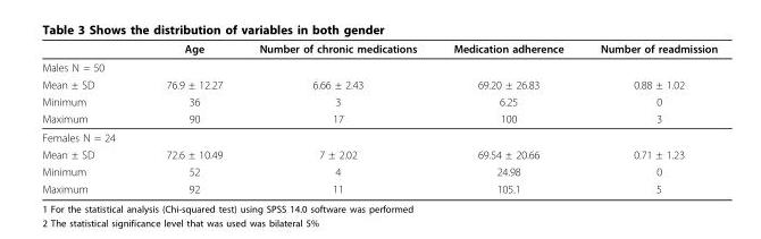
<table><thead><tr><td></td><td>Age</td><td>Number of chronic medications</td><td>Medication adherence</td><td>Number of readmission</td></tr></thead><tbody><tr><td colspan="5">Males N = 50</td></tr><tr><td>Mean ± SD</td><td>76.9 ± 12.27</td><td>6.66 ± 2.43</td><td>69.20 ± 26.83</td><td>0.88 ± 1.02</td></tr><tr><td>Minimum</td><td>36</td><td>3</td><td>6.25</td><td>0</td></tr><tr><td>Maximum</td><td>90</td><td>17</td><td>100</td><td>3</td></tr><tr><td colspan="5">Females N = 24</td></tr><tr><td>Mean ± SD</td><td>72.6 ± 10.49</td><td>7 ± 2.02</td><td>69.54 ± 20.66</td><td>0.71 ± 1.23</td></tr><tr><td>Minimum</td><td>52</td><td>4</td><td>24.98</td><td>0</td></tr><tr><td>Maximum</td><td>92</td><td>11</td><td>105.1</td><td>5</td></tr></tbody></table>